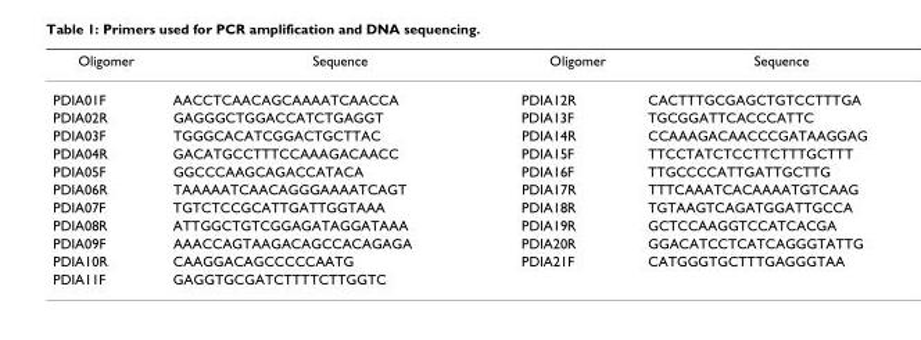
<table><thead><tr><td>Oligomer</td><td>Sequence</td><td>Oligomer</td><td>Sequence</td></tr></thead><tbody><tr><td>PDIA01F</td><td>AACCTCAACAGCAAAATCAACCA</td><td>PDIA12R</td><td>CACTTTGCGAGCTGTCCTTTGA</td></tr><tr><td>PDIA02R</td><td>GAGGGCTGGACCATCTGAGGT</td><td>PDIA13F</td><td>TGCGGATTCACCCATTC</td></tr><tr><td>PDIA03F</td><td>TGGGCACATCGGACTGCTTAC</td><td>PDIA14R</td><td>CCAAAGACAACCCGATAAGGAG</td></tr><tr><td>PDIA04R</td><td>GACATGCCTTTCCAAAGACAACC</td><td>PDIA15F</td><td>TTCCTATCTCCTTCTTTGCTTT</td></tr><tr><td>PDIA05F</td><td>GGCCCAAGCAGACCATACA</td><td>PDIA16F</td><td>TTGCCCCATTGATTGCTTG</td></tr><tr><td>PDIA06R</td><td>TAAAAATCAACAGGGAAAATCAGT</td><td>PDIA17R</td><td>TTTCAAATCACAAAATGTCAAG</td></tr><tr><td>PDIA07F</td><td>TGTCTCCGCATTGATTGGTAAA</td><td>PDIA18R</td><td>TGTAAGTCAGATGGATTGCCA</td></tr><tr><td>PDIA08R</td><td>ATTGGCTGTCGGAGATAGGATAAA</td><td>PDIA19R</td><td>GCTCCAAGGTCCATCACGA</td></tr><tr><td>PDIA09F</td><td>AAACCAGTAAGACAGCCACAGAGA</td><td>PDIA20R</td><td>GGACATCCTCATCAGGGTATTG</td></tr><tr><td>PDIA10R</td><td>CAAGGACAGCCCCCAATG</td><td>PDIA21F</td><td>CATGGGTGCTTTGAGGGTAA</td></tr><tr><td>PDIA11F</td><td>GAGGTGCGATCTTTTCTTGGTC</td><td></td><td></td></tr></tbody></table>